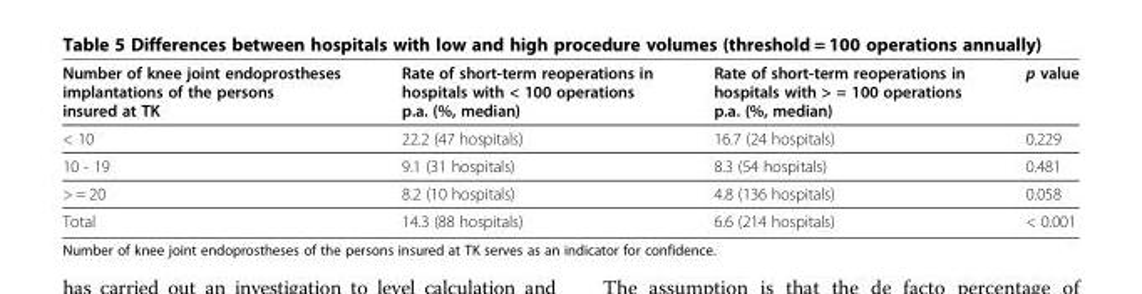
<table><thead><tr><td>Number of knee joint endoprostheses implantations of the persons insured at TK</td><td>Rate of short-term reoperations in hospitals with &lt; 100 operations p.a. (%, median)</td><td>Rate of short-term reoperations in hospitals with &gt; = 100 operations p.a. (%, median)</td><td>p value</td></tr></thead><tbody><tr><td>&lt; 10</td><td>22.2 (47 hospitals)</td><td>16.7 (24 hospitals)</td><td>0.229</td></tr><tr><td>10 - 19</td><td>9.1 (31 hospitals)</td><td>8.3 (54 hospitals)</td><td>0.481</td></tr><tr><td>&gt; = 20</td><td>8.2 (10 hospitals)</td><td>4.8 (136 hospitals)</td><td>0.058</td></tr><tr><td>Total</td><td>14.3 (88 hospitals)</td><td>6.6 (214 hospitals)</td><td>&lt; 0.001</td></tr></tbody></table>